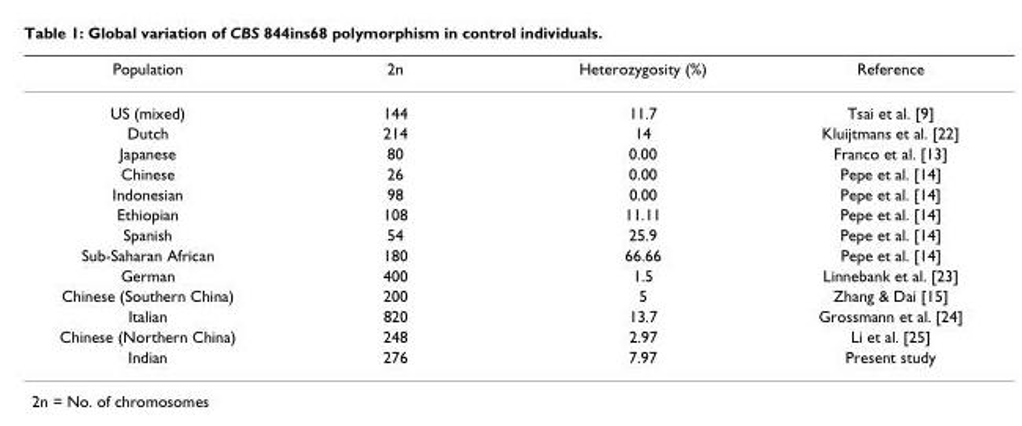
<table><thead><tr><td>Population</td><td>2n</td><td>Heterozygosity (%)</td><td>Reference</td></tr></thead><tbody><tr><td>US (mixed)</td><td>144</td><td>11.7</td><td>Tsai et al. [9]</td></tr><tr><td>Dutch</td><td>214</td><td>14</td><td>Kluijtmans et al. [22]</td></tr><tr><td>Japanese</td><td>80</td><td>0.00</td><td>Franco et al. [13]</td></tr><tr><td>Chinese</td><td>26</td><td>0.00</td><td>Pepe et al. [14]</td></tr><tr><td>Indonesian</td><td>98</td><td>0.00</td><td>Pepe et al. [14]</td></tr><tr><td>Ethiopian</td><td>108</td><td>11.11</td><td>Pepe et al. [14]</td></tr><tr><td>Spanish</td><td>54</td><td>25.9</td><td>Pepe et al. [14]</td></tr><tr><td>Sub-Saharan African</td><td>180</td><td>66.66</td><td>Pepe et al. [14]</td></tr><tr><td>German</td><td>400</td><td>1.5</td><td>Linnebank et al. [23]</td></tr><tr><td>Chinese (Southern China)</td><td>200</td><td>5</td><td>Zhang &amp; Dai [15]</td></tr><tr><td>Italian</td><td>820</td><td>13.7</td><td>Grossmann et al. [24]</td></tr><tr><td>Chinese (Northern China)</td><td>248</td><td>2.97</td><td>Li et al. [25]</td></tr><tr><td>Indian</td><td>276</td><td>7.97</td><td>Present study</td></tr></tbody></table>